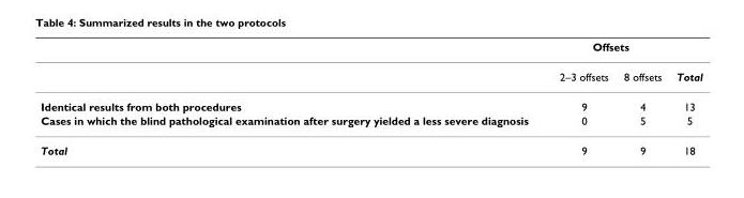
<table><thead><tr><td rowspan="2"></td><td colspan="2">Offsets</td><td rowspan="2">Total</td></tr><tr><td>2–3 offsets</td><td>8 offsets</td></tr></thead><tbody><tr><td>Identical results from both procedures</td><td>9</td><td>4</td><td>13</td></tr><tr><td>Cases in which the blind pathological examination after surgery yielded a less severe diagnosis</td><td>0</td><td>5</td><td>5</td></tr><tr><td>Total</td><td>9</td><td>9</td><td>18</td></tr></tbody></table>